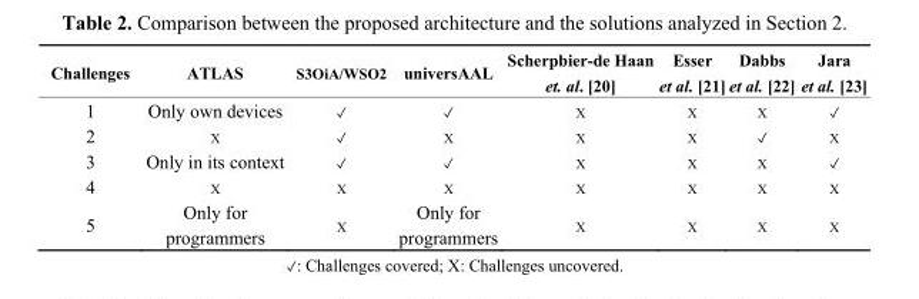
<table><thead><tr><td>Challenges</td><td>ATLAS</td><td>S3OiA/WSO2</td><td>universAAL</td><td>Scherpbier-de Haan et. al. [20]</td><td>Esser et al. [21]</td><td>Dabbs et al. [22]</td><td>Jara et al. [23]</td></tr></thead><tbody><tr><td>1</td><td>Only own devices</td><td>✓</td><td>✓</td><td>X</td><td>X</td><td>X</td><td>✓</td></tr><tr><td>2</td><td>X</td><td>✓</td><td>X</td><td>X</td><td>X</td><td>✓</td><td>X</td></tr><tr><td>3</td><td>Only in its context</td><td>✓</td><td>✓</td><td>X</td><td>X</td><td>X</td><td>✓</td></tr><tr><td>4</td><td>X</td><td>X</td><td>X</td><td>X</td><td>X</td><td>X</td><td>X</td></tr><tr><td>5</td><td>Only for programmers</td><td>X</td><td>Only for programmers</td><td>X</td><td>X</td><td>X</td><td>X</td></tr></tbody></table>